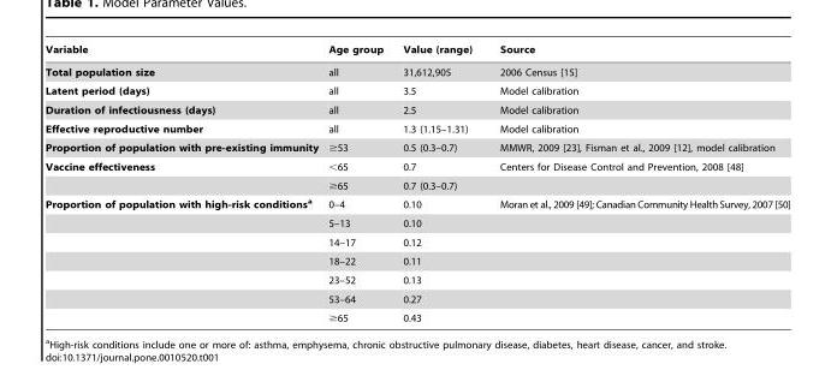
<table><thead><tr><td>Variable</td><td>Age group</td><td>Value (range)</td><td>Source</td></tr></thead><tbody><tr><td>Total population size</td><td>all</td><td>31,612,905</td><td>2006 Census [15]</td></tr><tr><td>Latent period (days)</td><td>all</td><td>3.5</td><td>Model calibration</td></tr><tr><td>Duration of infectiousness (days)</td><td>all</td><td>2.5</td><td>Model calibration</td></tr><tr><td>Effective reproductive number</td><td>all</td><td>1.3 (1.15–1.31)</td><td>Model calibration</td></tr><tr><td>Proportion of population with pre-existing immunity</td><td>≥53</td><td>0.5 (0.3–0.7)</td><td>MMWR, 2009 [23], Fisman et al., 2009 [12], model calibration</td></tr><tr><td rowspan="2">Vaccine effectiveness</td><td>&lt;65</td><td>0.7</td><td>Centers for Disease Control and Prevention, 2008 [48]</td></tr><tr><td>≥65</td><td>0.7 (0.3–0.7)</td><td></td></tr><tr><td rowspan="7">Proportion of population with high-risk conditionsa</td><td>0–4</td><td>0.10</td><td>Moran et al., 2009 [49]; Canadian Community Health Survey, 2007 [50]</td></tr><tr><td>5–13</td><td>0.10</td><td></td></tr><tr><td>14–17</td><td>0.12</td><td></td></tr><tr><td>18–22</td><td>0.11</td><td></td></tr><tr><td>23–52</td><td>0.13</td><td></td></tr><tr><td>53–64</td><td>0.27</td><td></td></tr><tr><td>≥65</td><td>0.43</td><td></td></tr></tbody></table>